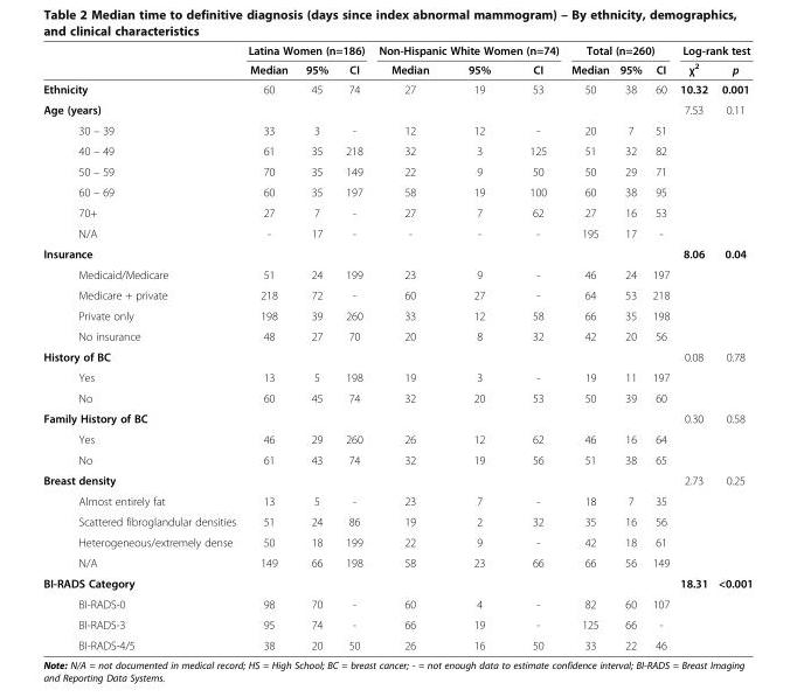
<table><thead><tr><td rowspan="2"></td><td colspan="3">Latina Women (n=186)</td><td colspan="3">Non-Hispanic White Women (n=74)</td><td colspan="3">Total (n=260)</td><td colspan="2">Log-rank test</td></tr><tr><td>Median</td><td>95%</td><td>CI</td><td>Median</td><td>95%</td><td>CI</td><td>Median</td><td>95%</td><td>CI</td><td>χ<sup>2</sup></td><td>p</td></tr></thead><tbody><tr><td>Ethnicity</td><td>60</td><td>45</td><td>74</td><td>27</td><td>19</td><td>53</td><td>50</td><td>38</td><td>60</td><td>10.32</td><td>0.001</td></tr><tr><td>Age (years)</td><td></td><td></td><td></td><td></td><td></td><td></td><td></td><td></td><td></td><td>7.53</td><td>0.11</td></tr><tr><td>30 – 39</td><td>33</td><td>3</td><td>-</td><td>12</td><td>12</td><td>-</td><td>20</td><td>7</td><td>51</td><td></td><td></td></tr><tr><td>40 – 49</td><td>61</td><td>35</td><td>218</td><td>32</td><td>3</td><td>125</td><td>51</td><td>32</td><td>82</td><td></td><td></td></tr><tr><td>50 – 59</td><td>70</td><td>35</td><td>149</td><td>22</td><td>9</td><td>50</td><td>50</td><td>29</td><td>71</td><td></td><td></td></tr><tr><td>60 – 69</td><td>60</td><td>35</td><td>197</td><td>58</td><td>19</td><td>100</td><td>60</td><td>38</td><td>95</td><td></td><td></td></tr><tr><td>70+</td><td>27</td><td>7</td><td>-</td><td>27</td><td>7</td><td>62</td><td>27</td><td>16</td><td>53</td><td></td><td></td></tr><tr><td>N/A</td><td>-</td><td>17</td><td>-</td><td>-</td><td>-</td><td>-</td><td>195</td><td>17</td><td>-</td><td></td><td></td></tr><tr><td>Insurance</td><td></td><td></td><td></td><td></td><td></td><td></td><td></td><td></td><td></td><td>8.06</td><td>0.04</td></tr><tr><td>Medicaid/Medicare</td><td>51</td><td>24</td><td>199</td><td>23</td><td>9</td><td>-</td><td>46</td><td>24</td><td>197</td><td></td><td></td></tr><tr><td>Medicare + private</td><td>218</td><td>72</td><td>-</td><td>60</td><td>27</td><td>-</td><td>64</td><td>53</td><td>218</td><td></td><td></td></tr><tr><td>Private only</td><td>198</td><td>39</td><td>260</td><td>33</td><td>12</td><td>58</td><td>66</td><td>35</td><td>198</td><td></td><td></td></tr><tr><td>No insurance</td><td>48</td><td>27</td><td>70</td><td>20</td><td>8</td><td>32</td><td>42</td><td>20</td><td>56</td><td></td><td></td></tr><tr><td>History of BC</td><td></td><td></td><td></td><td></td><td></td><td></td><td></td><td></td><td></td><td>0.08</td><td>0.78</td></tr><tr><td>Yes</td><td>13</td><td>5</td><td>198</td><td>19</td><td>3</td><td>-</td><td>19</td><td>11</td><td>197</td><td></td><td></td></tr><tr><td>No</td><td>60</td><td>45</td><td>74</td><td>32</td><td>20</td><td>53</td><td>50</td><td>39</td><td>60</td><td></td><td></td></tr><tr><td>Family History of BC</td><td></td><td></td><td></td><td></td><td></td><td></td><td></td><td></td><td></td><td>0.30</td><td>0.58</td></tr><tr><td>Yes</td><td>46</td><td>29</td><td>260</td><td>26</td><td>12</td><td>62</td><td>46</td><td>16</td><td>64</td><td></td><td></td></tr><tr><td>No</td><td>61</td><td>43</td><td>74</td><td>32</td><td>19</td><td>56</td><td>51</td><td>38</td><td>65</td><td></td><td></td></tr><tr><td>Breast density</td><td></td><td></td><td></td><td></td><td></td><td></td><td></td><td></td><td></td><td>2.73</td><td>0.25</td></tr><tr><td>Almost entirely fat</td><td>13</td><td>5</td><td>-</td><td>23</td><td>7</td><td>-</td><td>18</td><td>7</td><td>35</td><td></td><td></td></tr><tr><td>Scattered fibroglandular densities</td><td>51</td><td>24</td><td>86</td><td>19</td><td>2</td><td>32</td><td>35</td><td>16</td><td>56</td><td></td><td></td></tr><tr><td>Heterogeneous/extremely dense</td><td>50</td><td>18</td><td>199</td><td>22</td><td>9</td><td>-</td><td>42</td><td>18</td><td>61</td><td></td><td></td></tr><tr><td>N/A</td><td>149</td><td>66</td><td>198</td><td>58</td><td>23</td><td>66</td><td>66</td><td>56</td><td>149</td><td></td><td></td></tr><tr><td>BI-RADS Category</td><td></td><td></td><td></td><td></td><td></td><td></td><td></td><td></td><td></td><td>18.31</td><td>&lt;0.001</td></tr><tr><td>BI-RADS-0</td><td>98</td><td>70</td><td>-</td><td>60</td><td>4</td><td>-</td><td>82</td><td>60</td><td>107</td><td></td><td></td></tr><tr><td>BI-RADS-3</td><td>95</td><td>74</td><td>-</td><td>66</td><td>19</td><td>-</td><td>125</td><td>66</td><td>-</td><td></td><td></td></tr><tr><td>BI-RADS-4/5</td><td>38</td><td>20</td><td>50</td><td>26</td><td>16</td><td>50</td><td>33</td><td>22</td><td>46</td><td></td><td></td></tr></tbody></table>